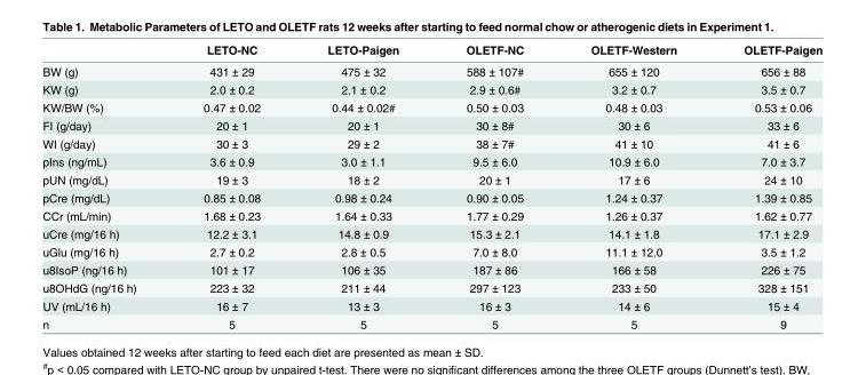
<table><thead><tr><td></td><td>LETO-NC</td><td>LETO-Paigen</td><td>OLETF-NC</td><td>OLETF-Western</td><td>OLETF-Paigen</td></tr></thead><tbody><tr><td>BW (g)</td><td>431 ± 29</td><td>475 ± 32</td><td>588 ± 107#</td><td>655 ± 120</td><td>656 ± 88</td></tr><tr><td>KW (g)</td><td>2.0 ± 0.2</td><td>2.1 ± 0.2</td><td>2.9 ± 0.6#</td><td>3.2 ± 0.7</td><td>3.5 ± 0.7</td></tr><tr><td>KW/BW (%)</td><td>0.47 ± 0.02</td><td>0.44 ± 0.02#</td><td>0.50 ± 0.03</td><td>0.48 ± 0.03</td><td>0.53 ± 0.06</td></tr><tr><td>FI (g/day)</td><td>20 ± 1</td><td>20 ± 1</td><td>30 ± 8#</td><td>30 ± 6</td><td>33 ± 6</td></tr><tr><td>WI (g/day)</td><td>30 ± 3</td><td>29 ± 2</td><td>38 ± 7#</td><td>41 ± 10</td><td>41 ± 6</td></tr><tr><td>pIns (ng/mL)</td><td>3.6 ± 0.9</td><td>3.0 ± 1.1</td><td>9.5 ± 6.0</td><td>10.9 ± 6.0</td><td>7.0 ± 3.7</td></tr><tr><td>pUN (mg/dL)</td><td>19 ± 3</td><td>18 ± 2</td><td>20 ± 1</td><td>17 ± 6</td><td>24 ± 10</td></tr><tr><td>pCre (mg/dL)</td><td>0.85 ± 0.08</td><td>0.98 ± 0.24</td><td>0.90 ± 0.05</td><td>1.24 ± 0.37</td><td>1.39 ± 0.85</td></tr><tr><td>CCr (mL/min)</td><td>1.68 ± 0.23</td><td>1.64 ± 0.33</td><td>1.77 ± 0.29</td><td>1.26 ± 0.37</td><td>1.62 ± 0.77</td></tr><tr><td>uCre (mg/16 h)</td><td>12.2 ± 3.1</td><td>14.8 ± 0.9</td><td>15.3 ± 2.1</td><td>14.1 ± 1.8</td><td>17.1 ± 2.9</td></tr><tr><td>uGlu (mg/16 h)</td><td>2.7 ± 0.2</td><td>2.8 ± 0.5</td><td>7.0 ± 8.0</td><td>11.1 ± 12.0</td><td>3.5 ± 1.2</td></tr><tr><td>u8IsoP (ng/16 h)</td><td>101 ± 17</td><td>106 ± 35</td><td>187 ± 86</td><td>166 ± 58</td><td>226 ± 75</td></tr><tr><td>u8OHdG (ng/16 h)</td><td>223 ± 32</td><td>211 ± 44</td><td>297 ± 123</td><td>233 ± 50</td><td>328 ± 151</td></tr><tr><td>UV (mL/16 h)</td><td>16 ± 7</td><td>13 ± 3</td><td>16 ± 3</td><td>14 ± 6</td><td>15 ± 4</td></tr><tr><td>n</td><td>5</td><td>5</td><td>5</td><td>5</td><td>9</td></tr></tbody></table>